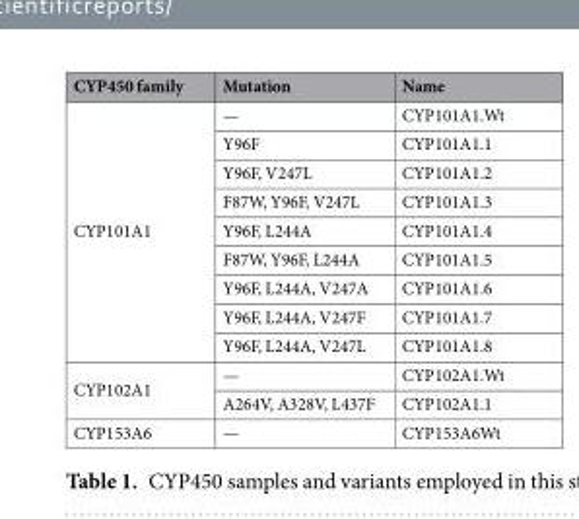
<table><thead><tr><td>CYP450 family</td><td>Mutation</td><td>Name</td></tr></thead><tbody><tr><td rowspan="9">CYP101A1</td><td>—</td><td>CYP101A1.Wt</td></tr><tr><td>Y96F</td><td>CYP101A1.1</td></tr><tr><td>Y96F, V247L</td><td>CYP101A1.2</td></tr><tr><td>F87W, Y96F, V247L</td><td>CYP101A1.3</td></tr><tr><td>Y96F, L244A</td><td>CYP101A1.4</td></tr><tr><td>F87W, Y96F, L244A</td><td>CYP101A1.5</td></tr><tr><td>Y96F, L244A, V247A</td><td>CYP101A1.6</td></tr><tr><td>Y96F, L244A, V247F</td><td>CYP101A1.7</td></tr><tr><td>Y96F, L244A, V247L</td><td>CYP101A1.8</td></tr><tr><td rowspan="2">CYP102A1</td><td>—</td><td>CYP102A1.Wt</td></tr><tr><td>A264V, A328V, L437F</td><td>CYP102A1.1</td></tr><tr><td>CYP153A6</td><td>—</td><td>CYP153A6Wt</td></tr></tbody></table>